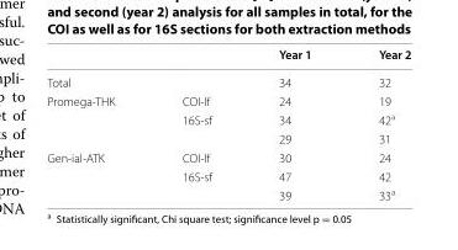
<table><thead><tr><td></td><td></td><td>Year 1</td><td>Year 2</td></tr></thead><tbody><tr><td>Total</td><td></td><td>34</td><td>32</td></tr><tr><td rowspan="3">Promega-THK</td><td>COI-lf</td><td>24</td><td>19</td></tr><tr><td>16S-sf</td><td>34</td><td>42<sup>a</sup></td></tr><tr><td></td><td>29</td><td>31</td></tr><tr><td rowspan="3">Gen-ial-ATK</td><td>COI-lf</td><td>30</td><td>24</td></tr><tr><td>16S-sf</td><td>47</td><td>42</td></tr><tr><td></td><td>39</td><td>33<sup>a</sup></td></tr></tbody></table>